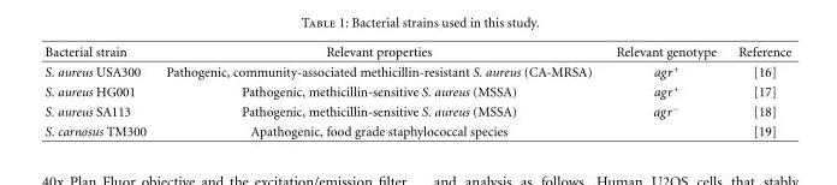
<table><thead><tr><td>Bacterial strain</td><td>Relevant properties</td><td>Relevant genotype</td><td>Reference</td></tr></thead><tbody><tr><td>S. aureus USA300</td><td>Pathogenic, community-associated methicillin-resistant S. aureus (CA-MRSA)</td><td>agr<sup>+</sup></td><td>[16]</td></tr><tr><td>S. aureus HG001</td><td>Pathogenic, methicillin-sensitive S. aureus (MSSA)</td><td>agr<sup>+</sup></td><td>[17]</td></tr><tr><td>S. aureus SA113</td><td>Pathogenic, methicillin-sensitive S. aureus (MSSA)</td><td>agr<sup>−</sup></td><td>[18]</td></tr><tr><td>S. carnosus TM300</td><td>Apathogenic, food grade staphylococcal species</td><td></td><td>[19]</td></tr></tbody></table>